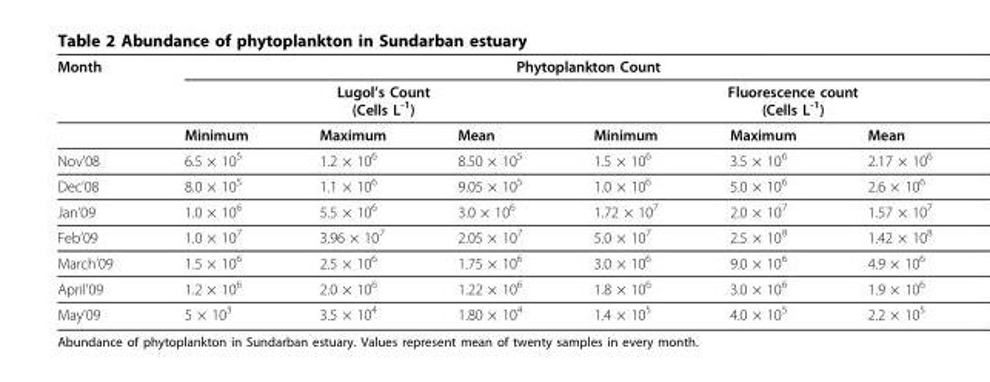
<table><thead><tr><td rowspan="3">Month</td><td colspan="6">Phytoplankton Count</td></tr><tr><td colspan="3">Lugol’s Count (Cells L<sup>-1</sup>)</td><td colspan="3">Fluorescence count (Cells L<sup>-1</sup>)</td></tr><tr><td>Minimum</td><td>Maximum</td><td>Mean</td><td>Minimum</td><td>Maximum</td><td>Mean</td></tr></thead><tbody><tr><td>Nov’08</td><td>6.5 × 10<sup>5</sup></td><td>1.2 × 10<sup>6</sup></td><td>8.50 × 10<sup>5</sup></td><td>1.5 × 10<sup>6</sup></td><td>3.5 × 10<sup>6</sup></td><td>2.17 × 10<sup>6</sup></td></tr><tr><td>Dec’08</td><td>8.0 × 10<sup>5</sup></td><td>1.1 × 10<sup>6</sup></td><td>9.05 × 10<sup>5</sup></td><td>1.0 × 10<sup>6</sup></td><td>5.0 × 10<sup>6</sup></td><td>2.6 × 10<sup>6</sup></td></tr><tr><td>Jan’09</td><td>1.0 × 10<sup>6</sup></td><td>5.5 × 10<sup>6</sup></td><td>3.0 × 10<sup>6</sup></td><td>1.72 × 10<sup>7</sup></td><td>2.0 × 10<sup>7</sup></td><td>1.57 × 10<sup>7</sup></td></tr><tr><td>Feb’09</td><td>1.0 × 10<sup>7</sup></td><td>3.96 × 10<sup>7</sup></td><td>2.05 × 10<sup>7</sup></td><td>5.0 × 10<sup>7</sup></td><td>2.5 × 10<sup>8</sup></td><td>1.42 × 10<sup>8</sup></td></tr><tr><td>March’09</td><td>1.5 × 10<sup>6</sup></td><td>2.5 × 10<sup>6</sup></td><td>1.75 × 10<sup>6</sup></td><td>3.0 × 10<sup>6</sup></td><td>9.0 × 10<sup>6</sup></td><td>4.9 × 10<sup>6</sup></td></tr><tr><td>April’09</td><td>1.2 × 10<sup>6</sup></td><td>2.0 × 10<sup>6</sup></td><td>1.22 × 10<sup>6</sup></td><td>1.8 × 10<sup>6</sup></td><td>3.0 × 10<sup>6</sup></td><td>1.9 × 10<sup>6</sup></td></tr><tr><td>May’09</td><td>5 × 10<sup>3</sup></td><td>3.5 × 10<sup>4</sup></td><td>1.80 × 10<sup>4</sup></td><td>1.4 × 10<sup>5</sup></td><td>4.0 × 10<sup>5</sup></td><td>2.2 × 10<sup>5</sup></td></tr></tbody></table>